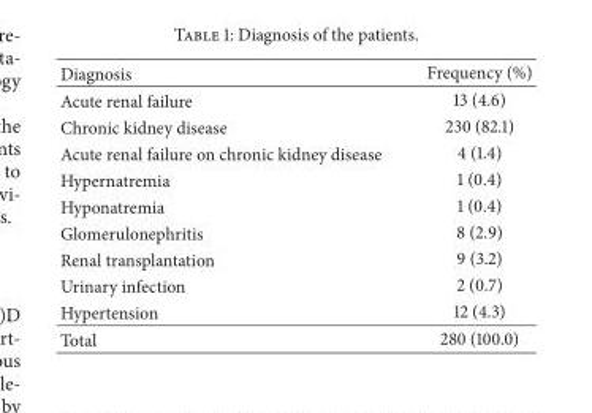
<table><thead><tr><td>Diagnosis</td><td>Frequency (%)</td></tr></thead><tbody><tr><td>Acute renal failure</td><td>13 (4.6)</td></tr><tr><td>Chronic kidney disease</td><td>230 (82.1)</td></tr><tr><td>Acute renal failure on chronic kidney disease</td><td>4 (1.4)</td></tr><tr><td>Hypernatremia</td><td>1 (0.4)</td></tr><tr><td>Hyponatremia</td><td>1 (0.4)</td></tr><tr><td>Glomerulonephritis</td><td>8 (2.9)</td></tr><tr><td>Renal transplantation</td><td>9 (3.2)</td></tr><tr><td>Urinary infection</td><td>2 (0.7)</td></tr><tr><td>Hypertension</td><td>12 (4.3)</td></tr><tr><td>Total</td><td>280 (100.0)</td></tr></tbody></table>